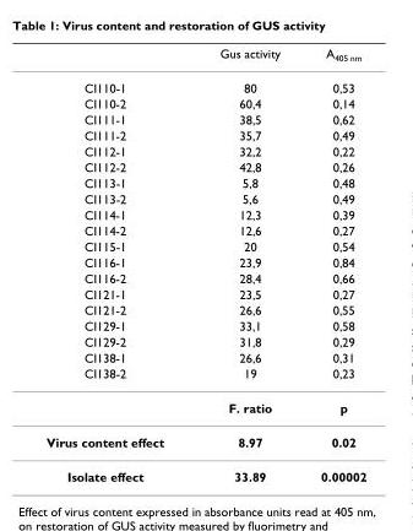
<table><thead><tr><td></td><td>Gus activity</td><td>A<sub>405 nm</sub></td></tr></thead><tbody><tr><td>CI110-1</td><td>80</td><td>0,53</td></tr><tr><td>CI110-2</td><td>60,4</td><td>0,14</td></tr><tr><td>CI111-1</td><td>38,5</td><td>0,62</td></tr><tr><td>CI111-2</td><td>35,7</td><td>0,49</td></tr><tr><td>CI112-1</td><td>32,2</td><td>0,22</td></tr><tr><td>CI112-2</td><td>42,8</td><td>0,26</td></tr><tr><td>CI113-1</td><td>5,8</td><td>0,48</td></tr><tr><td>CI113-2</td><td>5,6</td><td>0,49</td></tr><tr><td>CI114-1</td><td>12,3</td><td>0,39</td></tr><tr><td>CI114-2</td><td>12,6</td><td>0,27</td></tr><tr><td>CI115-1</td><td>20</td><td>0,54</td></tr><tr><td>CI116-1</td><td>23,9</td><td>0,84</td></tr><tr><td>CI116-2</td><td>28,4</td><td>0,66</td></tr><tr><td>CI121-1</td><td>23,5</td><td>0,27</td></tr><tr><td>CI121-2</td><td>26,6</td><td>0,55</td></tr><tr><td>CI129-1</td><td>33,1</td><td>0,58</td></tr><tr><td>CI129-2</td><td>31,8</td><td>0,29</td></tr><tr><td>CI138-1</td><td>26,6</td><td>0,31</td></tr><tr><td rowspan="2">CI138-2</td><td>19</td><td>0,23</td></tr><tr><td>F. ratio</td><td>p</td></tr><tr><td>Virus content effect</td><td>8.97</td><td>0.02</td></tr><tr><td>Isolate effect</td><td>33.89</td><td>0.00002</td></tr></tbody></table>